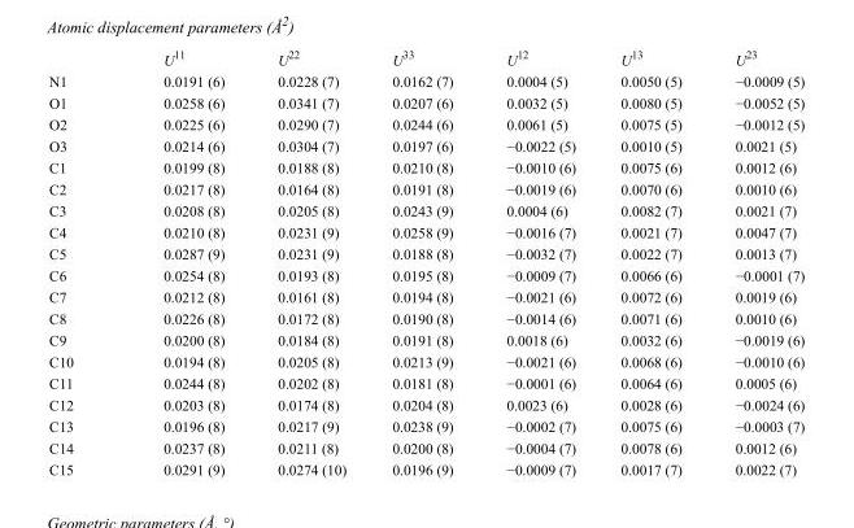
<table><thead><tr><td></td><td>U<sup>11</sup></td><td>U<sup>22</sup></td><td>U<sup>33</sup></td><td>U<sup>12</sup></td><td>U<sup>13</sup></td><td>U<sup>23</sup></td></tr></thead><tbody><tr><td>N1</td><td>0.0191 (6)</td><td>0.0228 (7)</td><td>0.0162 (7)</td><td>0.0004 (5)</td><td>0.0050 (5)</td><td>−0.0009 (5)</td></tr><tr><td>O1</td><td>0.0258 (6)</td><td>0.0341 (7)</td><td>0.0207 (6)</td><td>0.0032 (5)</td><td>0.0080 (5)</td><td>−0.0052 (5)</td></tr><tr><td>O2</td><td>0.0225 (6)</td><td>0.0290 (7)</td><td>0.0244 (6)</td><td>0.0061 (5)</td><td>0.0075 (5)</td><td>−0.0012 (5)</td></tr><tr><td>O3</td><td>0.0214 (6)</td><td>0.0304 (7)</td><td>0.0197 (6)</td><td>−0.0022 (5)</td><td>0.0010 (5)</td><td>0.0021 (5)</td></tr><tr><td>C1</td><td>0.0199 (8)</td><td>0.0188 (8)</td><td>0.0210 (8)</td><td>−0.0010 (6)</td><td>0.0075 (6)</td><td>0.0012 (6)</td></tr><tr><td>C2</td><td>0.0217 (8)</td><td>0.0164 (8)</td><td>0.0191 (8)</td><td>−0.0019 (6)</td><td>0.0070 (6)</td><td>0.0010 (6)</td></tr><tr><td>C3</td><td>0.0208 (8)</td><td>0.0205 (8)</td><td>0.0243 (9)</td><td>0.0004 (6)</td><td>0.0082 (7)</td><td>0.0021 (7)</td></tr><tr><td>C4</td><td>0.0210 (8)</td><td>0.0231 (9)</td><td>0.0258 (9)</td><td>−0.0016 (7)</td><td>0.0021 (7)</td><td>0.0047 (7)</td></tr><tr><td>C5</td><td>0.0287 (9)</td><td>0.0231 (9)</td><td>0.0188 (8)</td><td>−0.0032 (7)</td><td>0.0022 (7)</td><td>0.0013 (7)</td></tr><tr><td>C6</td><td>0.0254 (8)</td><td>0.0193 (8)</td><td>0.0195 (8)</td><td>−0.0009 (7)</td><td>0.0066 (6)</td><td>−0.0001 (7)</td></tr><tr><td>C7</td><td>0.0212 (8)</td><td>0.0161 (8)</td><td>0.0194 (8)</td><td>−0.0021 (6)</td><td>0.0072 (6)</td><td>0.0019 (6)</td></tr><tr><td>C8</td><td>0.0226 (8)</td><td>0.0172 (8)</td><td>0.0190 (8)</td><td>−0.0014 (6)</td><td>0.0071 (6)</td><td>0.0010 (6)</td></tr><tr><td>C9</td><td>0.0200 (8)</td><td>0.0184 (8)</td><td>0.0191 (8)</td><td>0.0018 (6)</td><td>0.0032 (6)</td><td>−0.0019 (6)</td></tr><tr><td>C10</td><td>0.0194 (8)</td><td>0.0205 (8)</td><td>0.0213 (9)</td><td>−0.0021 (6)</td><td>0.0068 (6)</td><td>−0.0010 (6)</td></tr><tr><td>C11</td><td>0.0244 (8)</td><td>0.0202 (8)</td><td>0.0181 (8)</td><td>−0.0001 (6)</td><td>0.0064 (6)</td><td>0.0005 (6)</td></tr><tr><td>C12</td><td>0.0203 (8)</td><td>0.0174 (8)</td><td>0.0204 (8)</td><td>0.0023 (6)</td><td>0.0028 (6)</td><td>−0.0024 (6)</td></tr><tr><td>C13</td><td>0.0196 (8)</td><td>0.0217 (9)</td><td>0.0238 (9)</td><td>−0.0002 (7)</td><td>0.0075 (6)</td><td>−0.0003 (7)</td></tr><tr><td>C14</td><td>0.0237 (8)</td><td>0.0211 (8)</td><td>0.0200 (8)</td><td>−0.0004 (7)</td><td>0.0078 (6)</td><td>0.0012 (6)</td></tr><tr><td>C15</td><td>0.0291 (9)</td><td>0.0274 (10)</td><td>0.0196 (9)</td><td>−0.0009 (7)</td><td>0.0017 (7)</td><td>0.0022 (7)</td></tr></tbody></table>